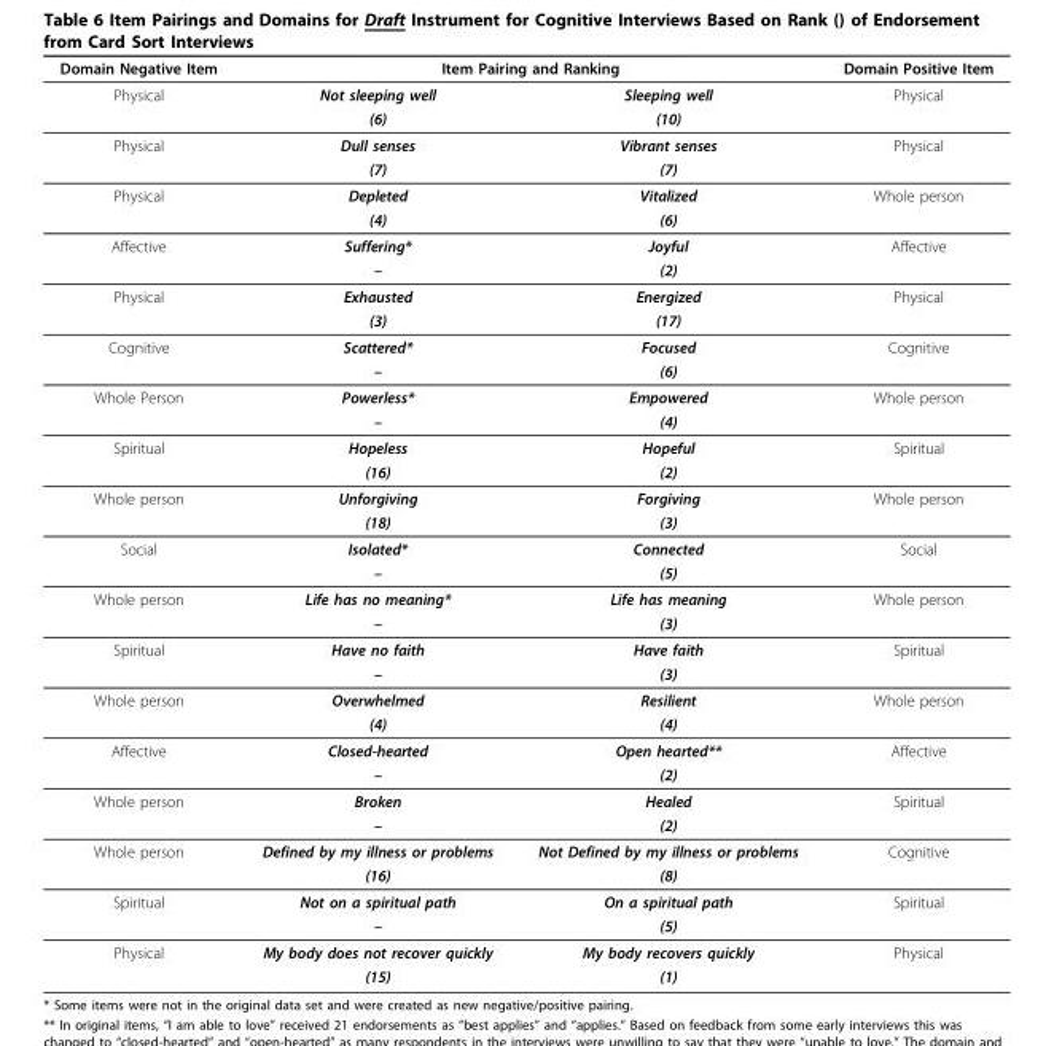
<table><thead><tr><td rowspan="2">Domain Negative Item Physical</td><td colspan="2">Item Pairing and Ranking</td><td rowspan="2">Domain Positive Item Physical</td></tr><tr><td>Not sleeping well</td><td>Sleeping well</td></tr></thead><tbody><tr><td></td><td>(6)</td><td>(10)</td><td></td></tr><tr><td rowspan="2">Physical</td><td>Dull senses</td><td>Vibrant senses</td><td>Physical</td></tr><tr><td>(7)</td><td>(7)</td><td></td></tr><tr><td rowspan="2">Physical</td><td>Depleted</td><td>Vitalized</td><td>Whole person</td></tr><tr><td>(4)</td><td>(6)</td><td></td></tr><tr><td rowspan="2">Affective</td><td>Suffering*</td><td>Joyful</td><td>Affective</td></tr><tr><td>–</td><td>(2)</td><td></td></tr><tr><td rowspan="2">Physical</td><td>Exhausted</td><td>Energized</td><td>Physical</td></tr><tr><td>(3)</td><td>(17)</td><td></td></tr><tr><td rowspan="2">Cognitive</td><td>Scattered*</td><td>Focused</td><td>Cognitive</td></tr><tr><td>–</td><td>(6)</td><td></td></tr><tr><td rowspan="2">Whole Person</td><td>Powerless*</td><td>Empowered</td><td>Whole person</td></tr><tr><td>–</td><td>(4)</td><td></td></tr><tr><td rowspan="2">Spiritual</td><td>Hopeless</td><td>Hopeful</td><td>Spiritual</td></tr><tr><td>(16)</td><td>(2)</td><td></td></tr><tr><td rowspan="2">Whole person</td><td>Unforgiving</td><td>Forgiving</td><td>Whole person</td></tr><tr><td>(18)</td><td>(3)</td><td></td></tr><tr><td rowspan="2">Social</td><td>Isolated*</td><td>Connected</td><td>Social</td></tr><tr><td>–</td><td>(5)</td><td></td></tr><tr><td rowspan="2">Whole person</td><td>Life has no meaning*</td><td>Life has meaning</td><td>Whole person</td></tr><tr><td>–</td><td>(3)</td><td></td></tr><tr><td rowspan="2">Spiritual</td><td>Have no faith</td><td>Have faith</td><td>Spiritual</td></tr><tr><td>–</td><td>(3)</td><td></td></tr><tr><td rowspan="2">Whole person</td><td>Overwhelmed</td><td>Resilient</td><td>Whole person</td></tr><tr><td>(4)</td><td>(4)</td><td></td></tr><tr><td rowspan="2">Affective</td><td>Closed-hearted</td><td>Open hearted**</td><td>Affective</td></tr><tr><td>–</td><td>(2)</td><td></td></tr><tr><td rowspan="2">Whole person</td><td>Broken</td><td>Healed</td><td>Spiritual</td></tr><tr><td>–</td><td>(2)</td><td></td></tr><tr><td rowspan="2">Whole person</td><td>Defined by my illness or problems</td><td>Not Defined by my illness or problems</td><td>Cognitive</td></tr><tr><td>(16)</td><td>(8)</td><td></td></tr><tr><td rowspan="2">Spiritual</td><td>Not on a spiritual path</td><td>On a spiritual path</td><td>Spiritual</td></tr><tr><td>–</td><td>(5)</td><td></td></tr><tr><td rowspan="2">Physical</td><td>My body does not recover quickly</td><td>My body recovers quickly</td><td>Physical</td></tr><tr><td>(15)</td><td>(1)</td><td></td></tr></tbody></table>